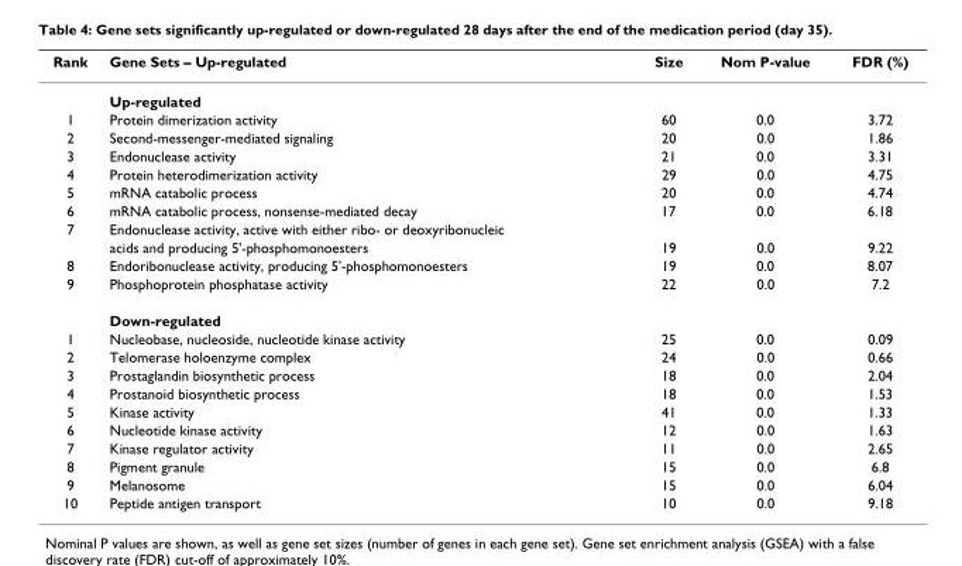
<table><thead><tr><td>Rank</td><td>Gene Sets – Up-regulated</td><td>Size</td><td>Nom P-value</td><td>FDR (%)</td></tr></thead><tbody><tr><td></td><td>Up-regulated</td><td></td><td></td><td></td></tr><tr><td>1</td><td>Protein dimerization activity</td><td>60</td><td>0.0</td><td>3.72</td></tr><tr><td>2</td><td>Second-messenger-mediated signaling</td><td>20</td><td>0.0</td><td>1.86</td></tr><tr><td>3</td><td>Endonuclease activity</td><td>21</td><td>0.0</td><td>3.31</td></tr><tr><td>4</td><td>Protein heterodimerization activity</td><td>29</td><td>0.0</td><td>4.75</td></tr><tr><td>5</td><td>mRNA catabolic process</td><td>20</td><td>0.0</td><td>4.74</td></tr><tr><td>6</td><td>mRNA catabolic process, nonsense-mediated decay</td><td>17</td><td>0.0</td><td>6.18</td></tr><tr><td rowspan="2">7</td><td>Endonuclease activity, active with either ribo- or deoxyribonucleic</td><td></td><td></td><td></td></tr><tr><td>acids and producing 5&#x27;-phosphomonoesters</td><td>19</td><td>0.0</td><td>9.22</td></tr><tr><td>8</td><td>Endoribonuclease activity, producing 5&#x27;-phosphomonoesters</td><td>19</td><td>0.0</td><td>8.07</td></tr><tr><td rowspan="2">9</td><td>Phosphoprotein phosphatase activity</td><td>22</td><td>0.0</td><td>7.2</td></tr><tr><td>Down-regulated</td><td></td><td></td><td></td></tr><tr><td>1</td><td>Nucleobase, nucleoside, nucleotide kinase activity</td><td>25</td><td>0.0</td><td>0.09</td></tr><tr><td>2</td><td>Telomerase holoenzyme complex</td><td>24</td><td>0.0</td><td>0.66</td></tr><tr><td>3</td><td>Prostaglandin biosynthetic process</td><td>18</td><td>0.0</td><td>2.04</td></tr><tr><td>4</td><td>Prostanoid biosynthetic process</td><td>18</td><td>0.0</td><td>1.53</td></tr><tr><td>5</td><td>Kinase activity</td><td>41</td><td>0.0</td><td>1.33</td></tr><tr><td>6</td><td>Nucleotide kinase activity</td><td>12</td><td>0.0</td><td>1.63</td></tr><tr><td>7</td><td>Kinase regulator activity</td><td>11</td><td>0.0</td><td>2.65</td></tr><tr><td>8</td><td>Pigment granule</td><td>15</td><td>0.0</td><td>6.8</td></tr><tr><td>9</td><td>Melanosome</td><td>15</td><td>0.0</td><td>6.04</td></tr><tr><td>10</td><td>Peptide antigen transport</td><td>10</td><td>0.0</td><td>9.18</td></tr></tbody></table>